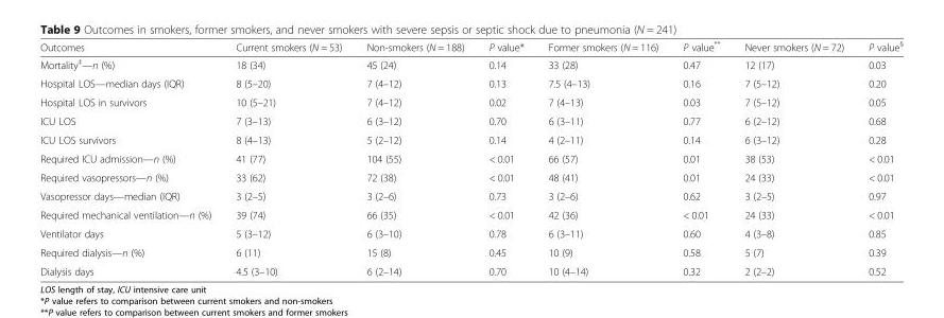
<table><thead><tr><td>Outcomes</td><td>Current smokers (N = 53)</td><td>Non-smokers (N = 188)</td><td>P value*</td><td>Former smokers (N = 116)</td><td>P value**</td><td>Never smokers (N = 72)</td><td>P value<sup>§</sup></td></tr></thead><tbody><tr><td>Mortality<sup>‡</sup>—n (%)</td><td>18 (34)</td><td>45 (24)</td><td>0.14</td><td>33 (28)</td><td>0.47</td><td>12 (17)</td><td>0.03</td></tr><tr><td>Hospital LOS—median days (IQR)</td><td>8 (5–20)</td><td>7 (4–12)</td><td>0.13</td><td>7.5 (4–13)</td><td>0.16</td><td>7 (5–12)</td><td>0.20</td></tr><tr><td>Hospital LOS in survivors</td><td>10 (5–21)</td><td>7 (4–12)</td><td>0.02</td><td>7 (4–13)</td><td>0.03</td><td>7 (5–12)</td><td>0.05</td></tr><tr><td>ICU LOS</td><td>7 (3–13)</td><td>6 (3–12)</td><td>0.70</td><td>6 (3–11)</td><td>0.77</td><td>6 (2–12)</td><td>0.68</td></tr><tr><td>ICU LOS survivors</td><td>8 (4–13)</td><td>5 (2–12)</td><td>0.14</td><td>4 (2–11)</td><td>0.14</td><td>6 (3–12)</td><td>0.28</td></tr><tr><td>Required ICU admission—n (%)</td><td>41 (77)</td><td>104 (55)</td><td>&lt; 0.01</td><td>66 (57)</td><td>0.01</td><td>38 (53)</td><td>&lt; 0.01</td></tr><tr><td>Required vasopressors—n (%)</td><td>33 (62)</td><td>72 (38)</td><td>&lt; 0.01</td><td>48 (41)</td><td>0.01</td><td>24 (33)</td><td>&lt; 0.01</td></tr><tr><td>Vasopressor days—median (IQR)</td><td>3 (2–5)</td><td>3 (2–6)</td><td>0.73</td><td>3 (2–6)</td><td>0.62</td><td>3 (2–5)</td><td>0.97</td></tr><tr><td>Required mechanical ventilation—n (%)</td><td>39 (74)</td><td>66 (35)</td><td>&lt; 0.01</td><td>42 (36)</td><td>&lt; 0.01</td><td>24 (33)</td><td>&lt; 0.01</td></tr><tr><td>Ventilator days</td><td>5 (3–12)</td><td>6 (3–10)</td><td>0.78</td><td>6 (3–11)</td><td>0.60</td><td>4 (3–8)</td><td>0.85</td></tr><tr><td>Required dialysis—n (%)</td><td>6 (11)</td><td>15 (8)</td><td>0.45</td><td>10 (9)</td><td>0.58</td><td>5 (7)</td><td>0.39</td></tr><tr><td>Dialysis days</td><td>4.5 (3–10)</td><td>6 (2–14)</td><td>0.70</td><td>10 (4–14)</td><td>0.32</td><td>2 (2–2)</td><td>0.52</td></tr></tbody></table>